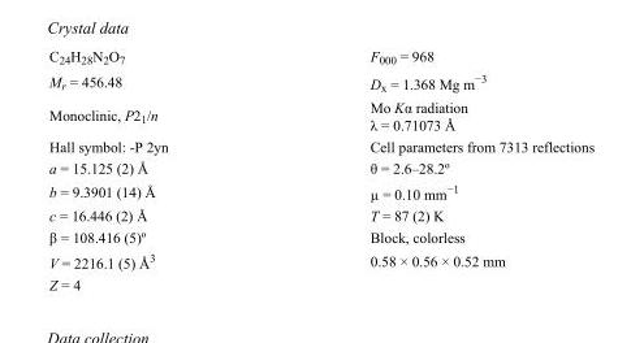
<table><tbody><tr><td>C<sub>24</sub>H<sub>28</sub>N<sub>2</sub>O<sub>7</sub></td><td>F000 = 968</td></tr><tr><td>M<sub>r</sub> = 456.48</td><td>D<sub>x</sub> = 1.368 Mg m<sup>−3</sup></td></tr><tr><td>Monoclinic, P2<sub>1</sub>/n</td><td>Mo Kα radiation λ = 0.71073 Å</td></tr><tr><td>Hall symbol: -P 2yn</td><td>Cell parameters from 7313 reflections</td></tr><tr><td>a = 15.125 (2) Å</td><td>θ = 2.6–28.2º</td></tr><tr><td>b = 9.3901 (14) Å</td><td>µ = 0.10 mm<sup>−1</sup></td></tr><tr><td>c = 16.446 (2) Å</td><td>T = 87 (2) K</td></tr><tr><td>β = 108.416 (5)º</td><td>Block, colorless</td></tr><tr><td>V = 2216.1 (5) Å<sup>3</sup></td><td>0.58 × 0.56 × 0.52 mm</td></tr><tr><td>Z = 4</td><td></td></tr></tbody></table>